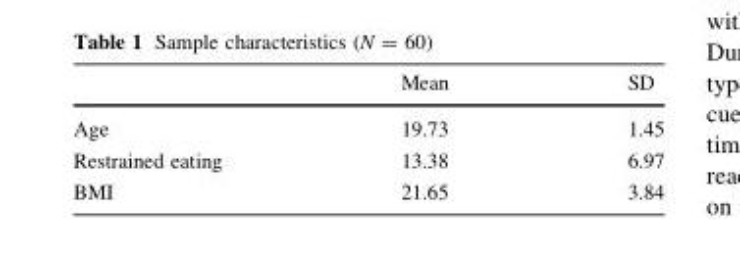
<table><thead><tr><td></td><td>Mean</td><td>SD</td></tr></thead><tbody><tr><td>Age</td><td>19.73</td><td>1.45</td></tr><tr><td>Restrained eating</td><td>13.38</td><td>6.97</td></tr><tr><td>BMI</td><td>21.65</td><td>3.84</td></tr></tbody></table>